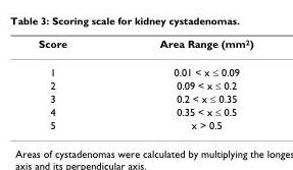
<table><thead><tr><td>Score</td><td>Area Range (mm<sup>2</sup>)</td></tr></thead><tbody><tr><td>1</td><td>0.01 &lt; x ≤ 0.09</td></tr><tr><td>2</td><td>0.09 &lt; x ≤ 0.2</td></tr><tr><td>3</td><td>0.2 &lt; x ≤ 0.35</td></tr><tr><td>4</td><td>0.35 &lt; x ≤ 0.5</td></tr><tr><td>5</td><td>x &gt; 0.5</td></tr></tbody></table>